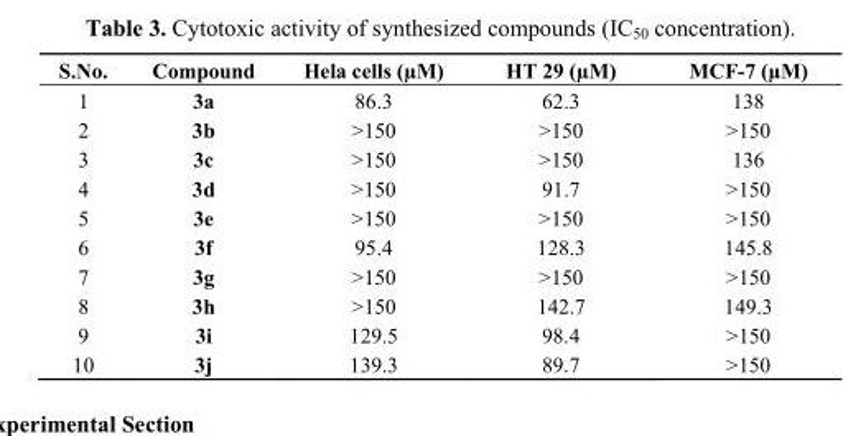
<table><thead><tr><td>S.No.</td><td>Compound</td><td>Hela cells (µM)</td><td>HT 29 (µM)</td><td>MCF-7 (µM)</td></tr></thead><tbody><tr><td>1</td><td>3a</td><td>86.3</td><td>62.3</td><td>138</td></tr><tr><td>2</td><td>3b</td><td>&gt;150</td><td>&gt;150</td><td>&gt;150</td></tr><tr><td>3</td><td>3c</td><td>&gt;150</td><td>&gt;150</td><td>136</td></tr><tr><td>4</td><td>3d</td><td>&gt;150</td><td>91.7</td><td>&gt;150</td></tr><tr><td>5</td><td>3e</td><td>&gt;150</td><td>&gt;150</td><td>&gt;150</td></tr><tr><td>6</td><td>3f</td><td>95.4</td><td>128.3</td><td>145.8</td></tr><tr><td>7</td><td>3g</td><td>&gt;150</td><td>&gt;150</td><td>&gt;150</td></tr><tr><td>8</td><td>3h</td><td>&gt;150</td><td>142.7</td><td>149.3</td></tr><tr><td>9</td><td>3i</td><td>129.5</td><td>98.4</td><td>&gt;150</td></tr><tr><td>10</td><td>3j</td><td>139.3</td><td>89.7</td><td>&gt;150</td></tr></tbody></table>